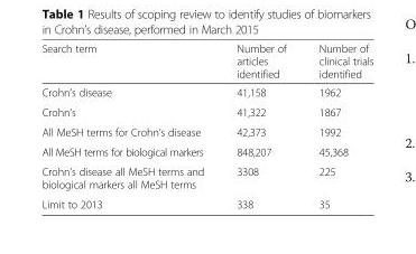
<table><thead><tr><td>Search term</td><td>Number of articles identified</td><td>Number of clinical trials identified</td></tr></thead><tbody><tr><td>Crohn’s disease</td><td>41,158</td><td>1962</td></tr><tr><td>Crohn’s</td><td>41,322</td><td>1867</td></tr><tr><td>All MeSH terms for Crohn’s disease</td><td>42,373</td><td>1992</td></tr><tr><td>All MeSH terms for biological markers</td><td>848,207</td><td>45,368</td></tr><tr><td>Crohn’s disease all MeSH terms and biological markers all MeSH terms</td><td>3308</td><td>225</td></tr><tr><td>Limit to 2013</td><td>338</td><td>35</td></tr></tbody></table>